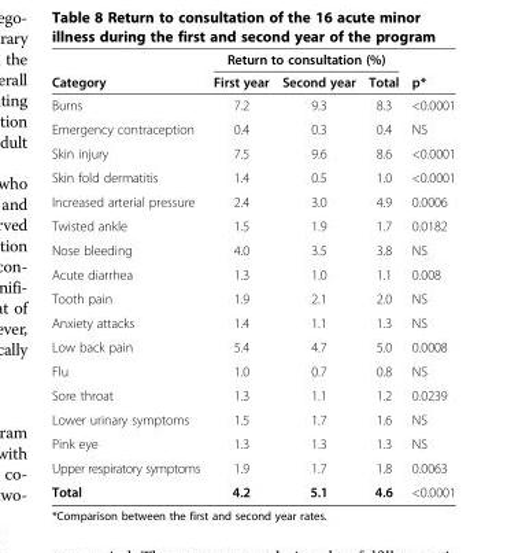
<table><thead><tr><td rowspan="2">Category</td><td colspan="3">Return to consultation (%)</td><td rowspan="2">p*</td></tr><tr><td>First year</td><td>Second year</td><td>Total</td></tr></thead><tbody><tr><td>Burns</td><td>7.2</td><td>9.3</td><td>8.3</td><td>&lt;0.0001</td></tr><tr><td>Emergency contraception</td><td>0.4</td><td>0.3</td><td>0.4</td><td>NS</td></tr><tr><td>Skin injury</td><td>7.5</td><td>9.6</td><td>8.6</td><td>&lt;0.0001</td></tr><tr><td>Skin fold dermatitis</td><td>1.4</td><td>0.5</td><td>1.0</td><td>&lt;0.0001</td></tr><tr><td>Increased arterial pressure</td><td>2.4</td><td>3.0</td><td>4.9</td><td>0.0006</td></tr><tr><td>Twisted ankle</td><td>1.5</td><td>1.9</td><td>1.7</td><td>0.0182</td></tr><tr><td>Nose bleeding</td><td>4.0</td><td>3.5</td><td>3.8</td><td>NS</td></tr><tr><td>Acute diarrhea</td><td>1.3</td><td>1.0</td><td>1.1</td><td>0.008</td></tr><tr><td>Tooth pain</td><td>1.9</td><td>2.1</td><td>2.0</td><td>NS</td></tr><tr><td>Anxiety attacks</td><td>1.4</td><td>1.1</td><td>1.3</td><td>NS</td></tr><tr><td>Low back pain</td><td>5.4</td><td>4.7</td><td>5.0</td><td>0.0008</td></tr><tr><td>Flu</td><td>1.0</td><td>0.7</td><td>0.8</td><td>NS</td></tr><tr><td>Sore throat</td><td>1.3</td><td>1.1</td><td>1.2</td><td>0.0239</td></tr><tr><td>Lower urinary symptoms</td><td>1.5</td><td>1.7</td><td>1.6</td><td>NS</td></tr><tr><td>Pink eye</td><td>1.3</td><td>1.3</td><td>1.3</td><td>NS</td></tr><tr><td>Upper respiratory symptoms</td><td>1.9</td><td>1.7</td><td>1.8</td><td>0.0063</td></tr><tr><td>Total</td><td>4.2</td><td>5.1</td><td>4.6</td><td>&lt;0.0001</td></tr></tbody></table>